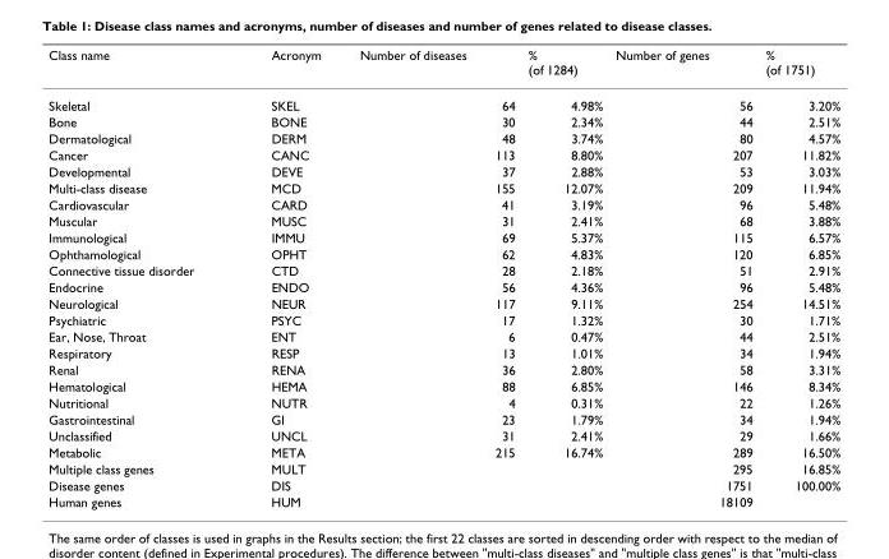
<table><thead><tr><td>Class name</td><td>Acronym</td><td>Number of diseases</td><td>% (of 1284)</td><td>Number of genes</td><td>% (of 1751)</td></tr></thead><tbody><tr><td>Skeletal</td><td>SKEL</td><td>64</td><td>4.98%</td><td>56</td><td>3.20%</td></tr><tr><td>Bone</td><td>BONE</td><td>30</td><td>2.34%</td><td>44</td><td>2.51%</td></tr><tr><td>Dermatological</td><td>DERM</td><td>48</td><td>3.74%</td><td>80</td><td>4.57%</td></tr><tr><td>Cancer</td><td>CANC</td><td>113</td><td>8.80%</td><td>207</td><td>11.82%</td></tr><tr><td>Developmental</td><td>DEVE</td><td>37</td><td>2.88%</td><td>53</td><td>3.03%</td></tr><tr><td>Multi-class disease</td><td>MCD</td><td>155</td><td>12.07%</td><td>209</td><td>11.94%</td></tr><tr><td>Cardiovascular</td><td>CARD</td><td>41</td><td>3.19%</td><td>96</td><td>5.48%</td></tr><tr><td>Muscular</td><td>MUSC</td><td>31</td><td>2.41%</td><td>68</td><td>3.88%</td></tr><tr><td>Immunological</td><td>IMMU</td><td>69</td><td>5.37%</td><td>115</td><td>6.57%</td></tr><tr><td>Ophthamological</td><td>OPHT</td><td>62</td><td>4.83%</td><td>120</td><td>6.85%</td></tr><tr><td>Connective tissue disorder</td><td>CTD</td><td>28</td><td>2.18%</td><td>51</td><td>2.91%</td></tr><tr><td>Endocrine</td><td>ENDO</td><td>56</td><td>4.36%</td><td>96</td><td>5.48%</td></tr><tr><td>Neurological</td><td>NEUR</td><td>117</td><td>9.11%</td><td>254</td><td>14.51%</td></tr><tr><td>Psychiatric</td><td>PSYC</td><td>17</td><td>1.32%</td><td>30</td><td>1.71%</td></tr><tr><td>Ear, Nose, Throat</td><td>ENT</td><td>6</td><td>0.47%</td><td>44</td><td>2.51%</td></tr><tr><td>Respiratory</td><td>RESP</td><td>13</td><td>1.01%</td><td>34</td><td>1.94%</td></tr><tr><td>Renal</td><td>RENA</td><td>36</td><td>2.80%</td><td>58</td><td>3.31%</td></tr><tr><td>Hematological</td><td>HEMA</td><td>88</td><td>6.85%</td><td>146</td><td>8.34%</td></tr><tr><td>Nutritional</td><td>NUTR</td><td>4</td><td>0.31%</td><td>22</td><td>1.26%</td></tr><tr><td>Gastrointestinal</td><td>GI</td><td>23</td><td>1.79%</td><td>34</td><td>1.94%</td></tr><tr><td>Unclassified</td><td>UNCL</td><td>31</td><td>2.41%</td><td>29</td><td>1.66%</td></tr><tr><td>Metabolic</td><td>META</td><td>215</td><td>16.74%</td><td>289</td><td>16.50%</td></tr><tr><td>Multiple class genes</td><td>MULT</td><td></td><td></td><td>295</td><td>16.85%</td></tr><tr><td>Disease genes</td><td>DIS</td><td></td><td></td><td>1751</td><td>100.00%</td></tr><tr><td>Human genes</td><td>HUM</td><td></td><td></td><td>18109</td><td></td></tr></tbody></table>